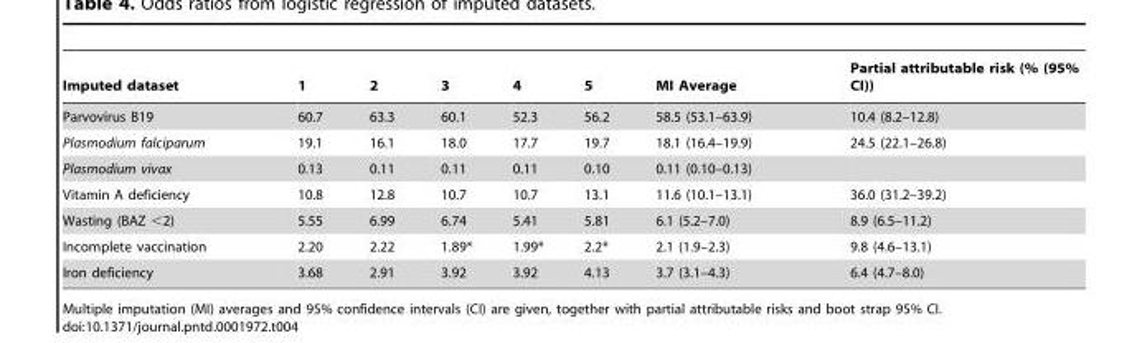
<table><thead><tr><td>Imputed dataset</td><td>1</td><td>2</td><td>3</td><td>4</td><td>5</td><td>MI Average</td><td>Partial attributable risk (% (95% CI))</td></tr></thead><tbody><tr><td>Parvovirus B19</td><td>60.7</td><td>63.3</td><td>60.1</td><td>52.3</td><td>56.2</td><td>58.5 (53.1–63.9)</td><td>10.4 (8.2–12.8)</td></tr><tr><td>Plasmodium falciparum</td><td>19.1</td><td>16.1</td><td>18.0</td><td>17.7</td><td>19.7</td><td>18.1 (16.4–19.9)</td><td>24.5 (22.1–26.8)</td></tr><tr><td>Plasmodium vivax</td><td>0.13</td><td>0.11</td><td>0.11</td><td>0.11</td><td>0.10</td><td>0.11 (0.10–0.13)</td><td></td></tr><tr><td>Vitamin A deficiency</td><td>10.8</td><td>12.8</td><td>10.7</td><td>10.7</td><td>13.1</td><td>11.6 (10.1–13.1)</td><td>36.0 (31.2–39.2)</td></tr><tr><td>Wasting (BAZ &lt;2)</td><td>5.55</td><td>6.99</td><td>6.74</td><td>5.41</td><td>5.81</td><td>6.1 (5.2–7.0)</td><td>8.9 (6.5–11.2)</td></tr><tr><td>Incomplete vaccination</td><td>2.20</td><td>2.22</td><td>1.89*</td><td>1.99*</td><td>2.2*</td><td>2.1 (1.9–2.3)</td><td>9.8 (4.6–13.1)</td></tr><tr><td>Iron deficiency</td><td>3.68</td><td>2.91</td><td>3.92</td><td>3.92</td><td>4.13</td><td>3.7 (3.1–4.3)</td><td>6.4 (4.7–8.0)</td></tr></tbody></table>